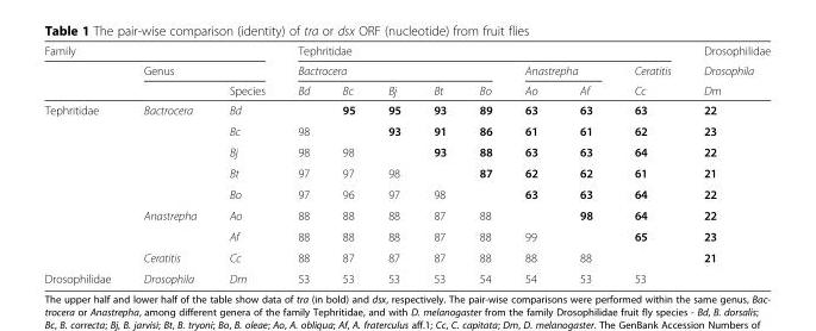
<table><thead><tr><td colspan="3">Family</td><td colspan="8">Tephritidae</td><td rowspan="3">Drosophilidae Drosophila Dm</td></tr><tr><td rowspan="2"></td><td colspan="2">Genus</td><td colspan="5">Bactrocera</td><td colspan="2">Anastrepha</td><td rowspan="2">Ceratitis Cc</td></tr><tr><td></td><td>Species</td><td>Bd</td><td>Bc</td><td>Bj</td><td>Bt</td><td>Bo</td><td>Ao</td><td>Af</td></tr></thead><tbody><tr><td rowspan="8">Tephritidae</td><td rowspan="5">Bactrocera</td><td>Bd</td><td></td><td>95</td><td>95</td><td>93</td><td>89</td><td>63</td><td>63</td><td>63</td><td>22</td></tr><tr><td>Bc</td><td>98</td><td></td><td>93</td><td>91</td><td>86</td><td>61</td><td>61</td><td>62</td><td>23</td></tr><tr><td>Bj</td><td>98</td><td>98</td><td></td><td>93</td><td>88</td><td>63</td><td>63</td><td>64</td><td>22</td></tr><tr><td>Bt</td><td>97</td><td>97</td><td>98</td><td></td><td>87</td><td>62</td><td>62</td><td>61</td><td>21</td></tr><tr><td>Bo</td><td>97</td><td>96</td><td>97</td><td>98</td><td></td><td>63</td><td>63</td><td>64</td><td>22</td></tr><tr><td rowspan="2">Anastrepha</td><td>Ao</td><td>88</td><td>88</td><td>88</td><td>87</td><td>88</td><td></td><td>98</td><td>64</td><td>22</td></tr><tr><td>Af</td><td>88</td><td>88</td><td>88</td><td>87</td><td>88</td><td>99</td><td></td><td>65</td><td>23</td></tr><tr><td>Ceratitis</td><td>Cc</td><td>88</td><td>87</td><td>87</td><td>87</td><td>88</td><td>88</td><td>88</td><td></td><td>21</td></tr><tr><td>Drosophilidae</td><td>Drosophila</td><td>Dm</td><td>53</td><td>53</td><td>53</td><td>53</td><td>54</td><td>54</td><td>53</td><td>53</td><td></td></tr></tbody></table>